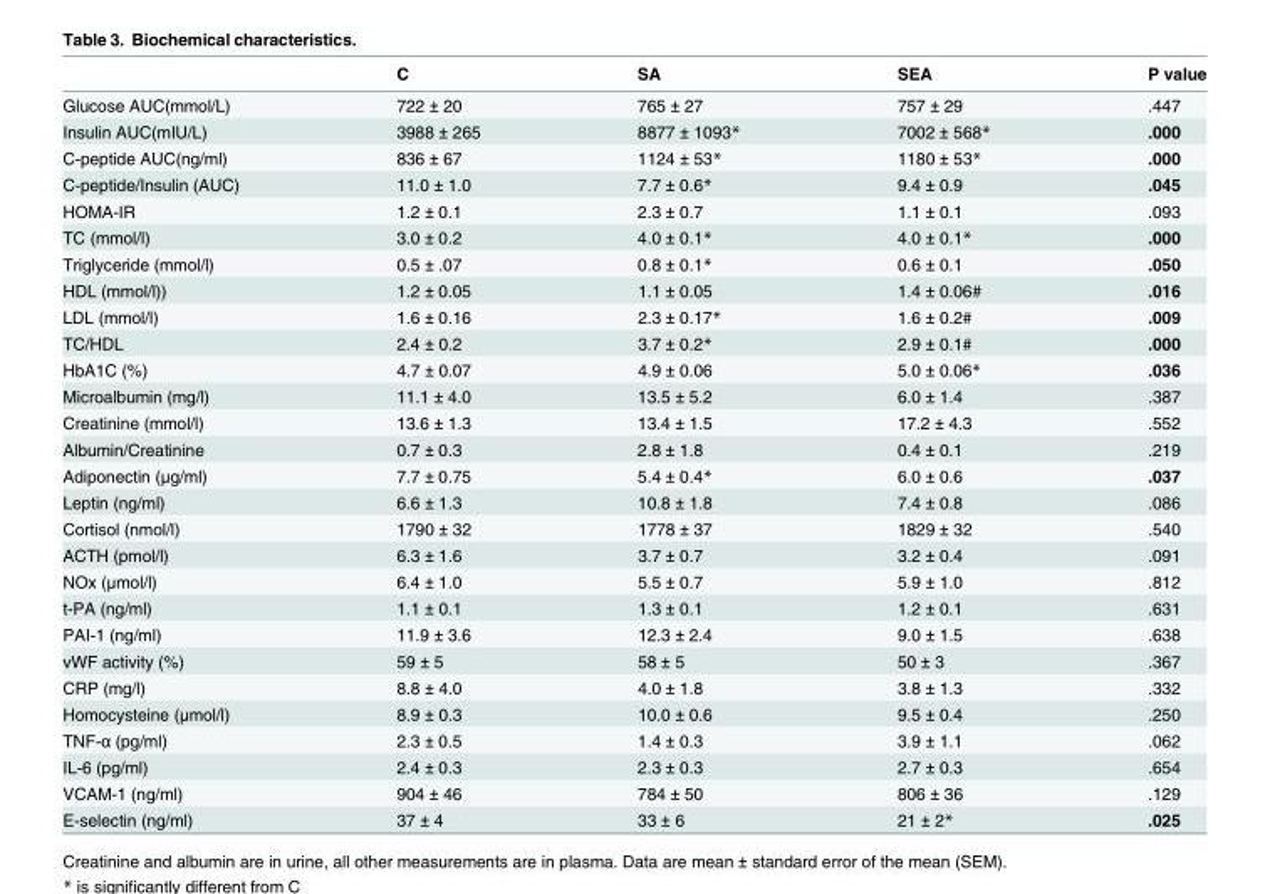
<table><thead><tr><td></td><td>C</td><td>SA</td><td>SEA</td><td>P value</td></tr></thead><tbody><tr><td>Glucose AUC(mmol/L)</td><td>722 ± 20</td><td>765 ± 27</td><td>757 ± 29</td><td>.447</td></tr><tr><td>Insulin AUC(mIU/L)</td><td>3988 ± 265</td><td>8877 ± 1093*</td><td>7002 ± 568*</td><td>.000</td></tr><tr><td>C-peptide AUC(ng/ml)</td><td>836 ± 67</td><td>1124 ± 53*</td><td>1180 ± 53*</td><td>.000</td></tr><tr><td>C-peptide/Insulin (AUC)</td><td>11.0 ± 1.0</td><td>7.7 ± 0.6*</td><td>9.4 ± 0.9</td><td>.045</td></tr><tr><td>HOMA-IR</td><td>1.2 ± 0.1</td><td>2.3 ± 0.7</td><td>1.1 ± 0.1</td><td>.093</td></tr><tr><td>TC (mmol/l)</td><td>3.0 ± 0.2</td><td>4.0 ± 0.1*</td><td>4.0 ± 0.1*</td><td>.000</td></tr><tr><td>Triglyceride (mmol/l)</td><td>0.5 ± .07</td><td>0.8 ± 0.1*</td><td>0.6 ± 0.1</td><td>.050</td></tr><tr><td>HDL (mmol/l))</td><td>1.2 ± 0.05</td><td>1.1 ± 0.05</td><td>1.4 ± 0.06#</td><td>.016</td></tr><tr><td>LDL (mmol/l)</td><td>1.6 ± 0.16</td><td>2.3 ± 0.17*</td><td>1.6 ± 0.2#</td><td>.009</td></tr><tr><td>TC/HDL</td><td>2.4 ± 0.2</td><td>3.7 ± 0.2*</td><td>2.9 ± 0.1#</td><td>.000</td></tr><tr><td>HbA1C (%)</td><td>4.7 ± 0.07</td><td>4.9 ± 0.06</td><td>5.0 ± 0.06*</td><td>.036</td></tr><tr><td>Microalbumin (mg/l)</td><td>11.1 ± 4.0</td><td>13.5 ± 5.2</td><td>6.0 ± 1.4</td><td>.387</td></tr><tr><td>Creatinine (mmol/l)</td><td>13.6 ± 1.3</td><td>13.4 ± 1.5</td><td>17.2 ± 4.3</td><td>.552</td></tr><tr><td>Albumin/Creatinine</td><td>0.7 ± 0.3</td><td>2.8 ± 1.8</td><td>0.4 ± 0.1</td><td>.219</td></tr><tr><td>Adiponectin (μg/ml)</td><td>7.7 ± 0.75</td><td>5.4 ± 0.4*</td><td>6.0 ± 0.6</td><td>.037</td></tr><tr><td>Leptin (ng/ml)</td><td>6.6 ± 1.3</td><td>10.8 ± 1.8</td><td>7.4 ± 0.8</td><td>.086</td></tr><tr><td>Cortisol (nmol/l)</td><td>1790 ± 32</td><td>1778 ± 37</td><td>1829 ± 32</td><td>.540</td></tr><tr><td>ACTH (pmol/l)</td><td>6.3 ± 1.6</td><td>3.7 ± 0.7</td><td>3.2 ± 0.4</td><td>.091</td></tr><tr><td>NOx (μmol/l)</td><td>6.4 ± 1.0</td><td>5.5 ± 0.7</td><td>5.9 ± 1.0</td><td>.812</td></tr><tr><td>t-PA (ng/ml)</td><td>1.1 ± 0.1</td><td>1.3 ± 0.1</td><td>1.2 ± 0.1</td><td>.631</td></tr><tr><td>PAI-1 (ng/ml)</td><td>11.9 ± 3.6</td><td>12.3 ± 2.4</td><td>9.0 ± 1.5</td><td>.638</td></tr><tr><td>vWF activity (%)</td><td>59 ± 5</td><td>58 ± 5</td><td>50 ± 3</td><td>.367</td></tr><tr><td>CRP (mg/l)</td><td>8.8 ± 4.0</td><td>4.0 ± 1.8</td><td>3.8 ± 1.3</td><td>.332</td></tr><tr><td>Homocysteine (μmol/l)</td><td>8.9 ± 0.3</td><td>10.0 ± 0.6</td><td>9.5 ± 0.4</td><td>.250</td></tr><tr><td>TNF-α (pg/ml)</td><td>2.3 ± 0.5</td><td>1.4 ± 0.3</td><td>3.9 ± 1.1</td><td>.062</td></tr><tr><td>IL-6 (pg/ml)</td><td>2.4 ± 0.3</td><td>2.3 ± 0.3</td><td>2.7 ± 0.3</td><td>.654</td></tr><tr><td>VCAM-1 (ng/ml)</td><td>904 ± 46</td><td>784 ± 50</td><td>806 ± 36</td><td>.129</td></tr><tr><td>E-selectin (ng/ml)</td><td>37 ± 4</td><td>33 ± 6</td><td>21 ± 2*</td><td>.025</td></tr></tbody></table>